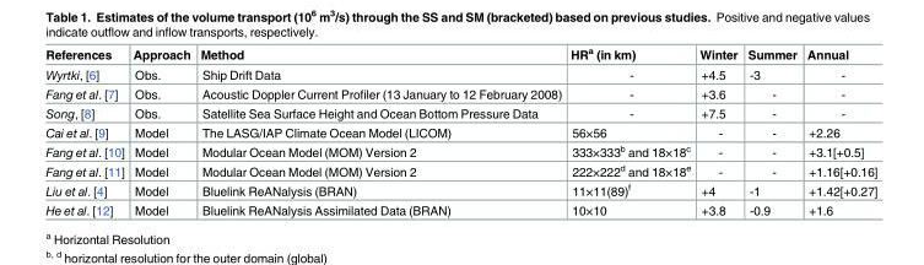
<table><thead><tr><td>References</td><td>Approach</td><td>Method</td><td>HR<sup>a</sup> (in km)</td><td>Winter</td><td>Summer</td><td>Annual</td></tr></thead><tbody><tr><td>Wyrtki, [6]</td><td>Obs.</td><td>Ship Drift Data</td><td>-</td><td>+4.5</td><td>-3</td><td>-</td></tr><tr><td>Fang et al. [7]</td><td>Obs.</td><td>Acoustic Doppler Current Profiler (13 January to 12 February 2008)</td><td>-</td><td>+3.6</td><td>-</td><td>-</td></tr><tr><td>Song, [8]</td><td>Obs.</td><td>Satellite Sea Surface Height and Ocean Bottom Pressure Data</td><td>-</td><td>+7.5</td><td>-</td><td>-</td></tr><tr><td>Cai et al. [9]</td><td>Model</td><td>The LASG/IAP Climate Ocean Model (LICOM)</td><td>56×56</td><td>-</td><td>-</td><td>+2.26</td></tr><tr><td>Fang et al. [10]</td><td>Model</td><td>Modular Ocean Model (MOM) Version 2</td><td>333×333<sup>b</sup> and 18×18<sup>c</sup></td><td>-</td><td>-</td><td>+3.1[+0.5]</td></tr><tr><td>Fang et al. [11]</td><td>Model</td><td>Modular Ocean Model (MOM) Version 2</td><td>222×222<sup>d</sup> and 18×18<sup>e</sup></td><td>-</td><td>-</td><td>+1.16[+0.16]</td></tr><tr><td>Liu et al. [4]</td><td>Model</td><td>Bluelink ReANalysis (BRAN)</td><td>11×11(89)<sup>f</sup></td><td>+4</td><td>-1</td><td>+1.42[+0.27]</td></tr><tr><td>He et al. [12]</td><td>Model</td><td>Bluelink ReANalysis Assimilated Data (BRAN)</td><td>10×10</td><td>+3.8</td><td>-0.9</td><td>+1.6</td></tr></tbody></table>